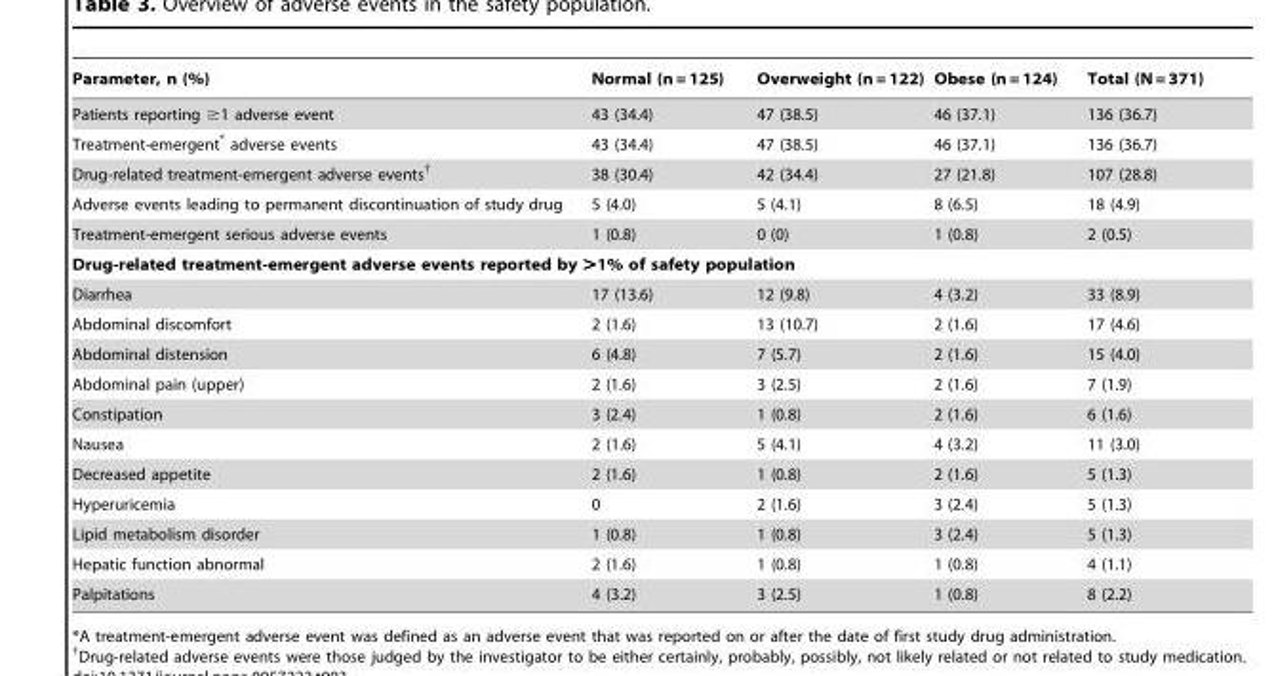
<table><thead><tr><td>Parameter, n (%)</td><td>Normal (n = 125)</td><td>Overweight (n = 122)</td><td>Obese (n = 124)</td><td>Total (N = 371)</td></tr></thead><tbody><tr><td>Patients reporting ≥1 adverse event</td><td>43 (34.4)</td><td>47 (38.5)</td><td>46 (37.1)</td><td>136 (36.7)</td></tr><tr><td>Treatment-emergent* adverse events</td><td>43 (34.4)</td><td>47 (38.5)</td><td>46 (37.1)</td><td>136 (36.7)</td></tr><tr><td>Drug-related treatment-emergent adverse events†</td><td>38 (30.4)</td><td>42 (34.4)</td><td>27 (21.8)</td><td>107 (28.8)</td></tr><tr><td>Adverse events leading to permanent discontinuation of study drug</td><td>5 (4.0)</td><td>5 (4.1)</td><td>8 (6.5)</td><td>18 (4.9)</td></tr><tr><td>Treatment-emergent serious adverse events</td><td>1 (0.8)</td><td>0 (0)</td><td>1 (0.8)</td><td>2 (0.5)</td></tr><tr><td colspan="5">Drug-related treatment-emergent adverse events reported by &gt;1% of safety population</td></tr><tr><td>Diarrhea</td><td>17 (13.6)</td><td>12 (9.8)</td><td>4 (3.2)</td><td>33 (8.9)</td></tr><tr><td>Abdominal discomfort</td><td>2 (1.6)</td><td>13 (10.7)</td><td>2 (1.6)</td><td>17 (4.6)</td></tr><tr><td>Abdominal distension</td><td>6 (4.8)</td><td>7 (5.7)</td><td>2 (1.6)</td><td>15 (4.0)</td></tr><tr><td>Abdominal pain (upper)</td><td>2 (1.6)</td><td>3 (2.5)</td><td>2 (1.6)</td><td>7 (1.9)</td></tr><tr><td>Constipation</td><td>3 (2.4)</td><td>1 (0.8)</td><td>2 (1.6)</td><td>6 (1.6)</td></tr><tr><td>Nausea</td><td>2 (1.6)</td><td>5 (4.1)</td><td>4 (3.2)</td><td>11 (3.0)</td></tr><tr><td>Decreased appetite</td><td>2 (1.6)</td><td>1 (0.8)</td><td>2 (1.6)</td><td>5 (1.3)</td></tr><tr><td>Hyperuricemia</td><td>0</td><td>2 (1.6)</td><td>3 (2.4)</td><td>5 (1.3)</td></tr><tr><td>Lipid metabolism disorder</td><td>1 (0.8)</td><td>1 (0.8)</td><td>3 (2.4)</td><td>5 (1.3)</td></tr><tr><td>Hepatic function abnormal</td><td>2 (1.6)</td><td>1 (0.8)</td><td>1 (0.8)</td><td>4 (1.1)</td></tr><tr><td>Palpitations</td><td>4 (3.2)</td><td>3 (2.5)</td><td>1 (0.8)</td><td>8 (2.2)</td></tr></tbody></table>